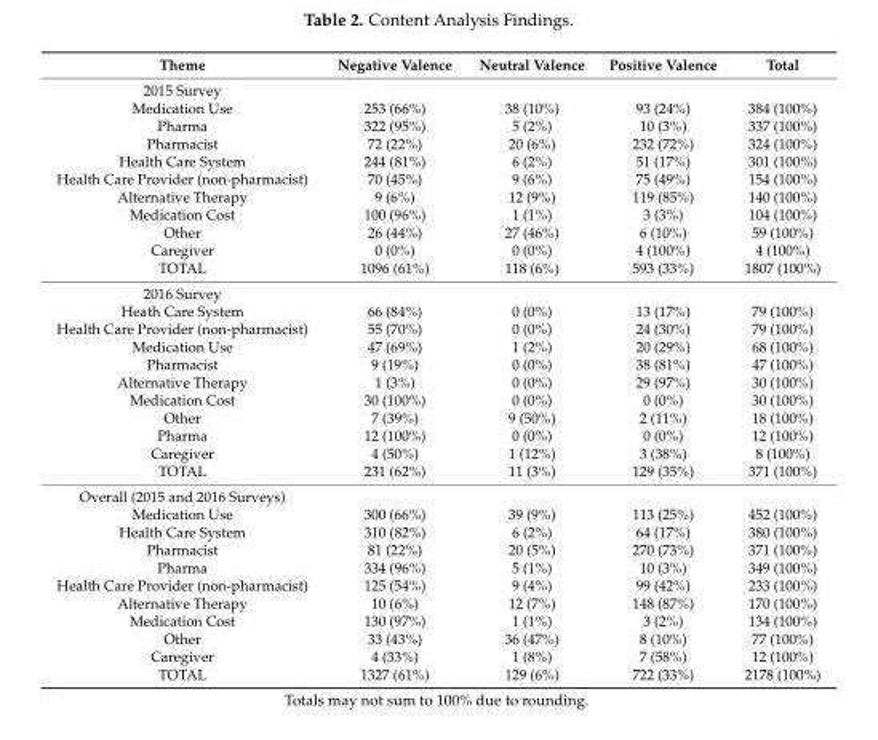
<table><thead><tr><td>Theme</td><td>Negative Valence</td><td>Neutral Valence</td><td>Positive Valence</td><td>Total</td></tr></thead><tbody><tr><td colspan="5">2015 Survey</td></tr><tr><td>Medication Use</td><td>253 (66%)</td><td>38 (10%)</td><td>93 (24%)</td><td>384 (100%)</td></tr><tr><td>Pharma</td><td>322 (95%)</td><td>5 (2%)</td><td>10 (3%)</td><td>337 (100%)</td></tr><tr><td>Pharmacist</td><td>72 (22%)</td><td>20 (6%)</td><td>232 (72%)</td><td>324 (100%)</td></tr><tr><td>Health Care System</td><td>244 (81%)</td><td>6 (2%)</td><td>51 (17%)</td><td>301 (100%)</td></tr><tr><td>Health Care Provider (non-pharmacist)</td><td>70 (45%)</td><td>9 (6%)</td><td>75 (49%)</td><td>154 (100%)</td></tr><tr><td>Alternative Therapy</td><td>9 (6%)</td><td>12 (9%)</td><td>119 (85%)</td><td>140 (100%)</td></tr><tr><td>Medication Cost</td><td>100 (96%)</td><td>1 (1%)</td><td>3 (3%)</td><td>104 (100%)</td></tr><tr><td>Other</td><td>26 (44%)</td><td>27 (46%)</td><td>6 (10%)</td><td>59 (100%)</td></tr><tr><td>Caregiver</td><td>0 (0%)</td><td>0 (0%)</td><td>4 (100%)</td><td>4 (100%)</td></tr><tr><td>TOTAL</td><td>1096 (61%)</td><td>118 (6%)</td><td>593 (33%)</td><td>1807 (100%)</td></tr><tr><td colspan="5">2016 Survey</td></tr><tr><td>Heath Care System</td><td>66 (84%)</td><td>0 (0%)</td><td>13 (17%)</td><td>79 (100%)</td></tr><tr><td>Health Care Provider (non-pharmacist)</td><td>55 (70%)</td><td>0 (0%)</td><td>24 (30%)</td><td>79 (100%)</td></tr><tr><td>Medication Use</td><td>47 (69%)</td><td>1 (2%)</td><td>20 (29%)</td><td>68 (100%)</td></tr><tr><td>Pharmacist</td><td>9 (19%)</td><td>0 (0%)</td><td>38 (81%)</td><td>47 (100%)</td></tr><tr><td>Alternative Therapy</td><td>1 (3%)</td><td>0 (0%)</td><td>29 (97%)</td><td>30 (100%)</td></tr><tr><td>Medication Cost</td><td>30 (100%)</td><td>0 (0%)</td><td>0 (0%)</td><td>30 (100%)</td></tr><tr><td>Other</td><td>7 (39%)</td><td>9 (50%)</td><td>2 (11%)</td><td>18 (100%)</td></tr><tr><td>Pharma</td><td>12 (100%)</td><td>0 (0%)</td><td>0 (0%)</td><td>12 (100%)</td></tr><tr><td>Caregiver</td><td>4 (50%)</td><td>1 (12%)</td><td>3 (38%)</td><td>8 (100%)</td></tr><tr><td>TOTAL</td><td>231 (62%)</td><td>11 (3%)</td><td>129 (35%)</td><td>371 (100%)</td></tr><tr><td colspan="5">Overall (2015 and 2016 Surveys)</td></tr><tr><td>Medication Use</td><td>300 (66%)</td><td>39 (9%)</td><td>113 (25%)</td><td>452 (100%)</td></tr><tr><td>Health Care System</td><td>310 (82%)</td><td>6 (2%)</td><td>64 (17%)</td><td>380 (100%)</td></tr><tr><td>Pharmacist</td><td>81 (22%)</td><td>20 (5%)</td><td>270 (73%)</td><td>371 (100%)</td></tr><tr><td>Pharma</td><td>334 (96%)</td><td>5 (1%)</td><td>10 (3%)</td><td>349 (100%)</td></tr><tr><td>Health Care Provider (non-pharmacist)</td><td>125 (54%)</td><td>9 (4%)</td><td>99 (42%)</td><td>233 (100%)</td></tr><tr><td>Alternative Therapy</td><td>10 (6%)</td><td>12 (7%)</td><td>148 (87%)</td><td>170 (100%)</td></tr><tr><td>Medication Cost</td><td>130 (97%)</td><td>1 (1%)</td><td>3 (2%)</td><td>134 (100%)</td></tr><tr><td>Other</td><td>33 (43%)</td><td>36 (47%)</td><td>8 (10%)</td><td>77 (100%)</td></tr><tr><td>Caregiver</td><td>4 (33%)</td><td>1 (8%)</td><td>7 (58%)</td><td>12 (100%)</td></tr><tr><td>TOTAL</td><td>1327 (61%)</td><td>129 (6%)</td><td>722 (33%)</td><td>2178 (100%)</td></tr></tbody></table>